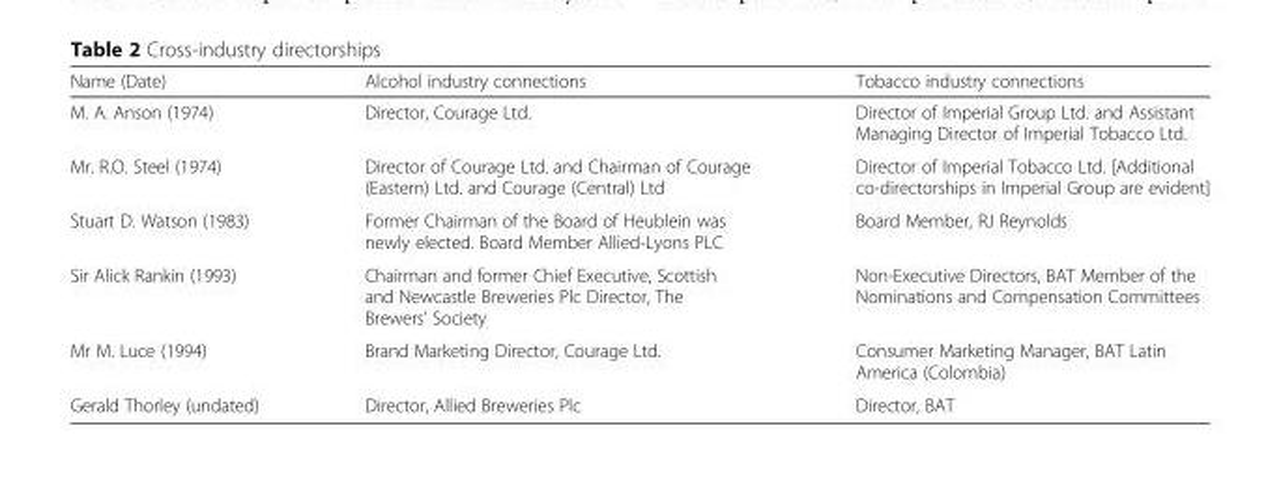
<table><thead><tr><td>Name (Date)</td><td>Alcohol industry connections</td><td>Tobacco industry connections</td></tr></thead><tbody><tr><td>M. A. Anson (1974)</td><td>Director, Courage Ltd.</td><td>Director of Imperial Group Ltd. and Assistant Managing Director of Imperial Tobacco Ltd.</td></tr><tr><td>Mr. R.O. Steel (1974)</td><td>Director of Courage Ltd. and Chairman of Courage (Eastern) Ltd. and Courage (Central) Ltd</td><td>Director of Imperial Tobacco Ltd. [Additional co-directorships in Imperial Group are evident]</td></tr><tr><td>Stuart D. Watson (1983)</td><td>Former Chairman of the Board of Heublein was newly elected. Board Member Allied-Lyons PLC</td><td>Board Member, RJ Reynolds</td></tr><tr><td>Sir Alick Rankin (1993)</td><td>Chairman and former Chief Executive, Scottish and Newcastle Breweries Plc Director, The Brewers’ Society</td><td>Non-Executive Directors, BAT Member of the Nominations and Compensation Committees</td></tr><tr><td>Mr M. Luce (1994)</td><td>Brand Marketing Director, Courage Ltd.</td><td>Consumer Marketing Manager, BAT Latin America (Colombia)</td></tr><tr><td>Gerald Thorley (undated)</td><td>Director, Allied Breweries Plc</td><td>Director, BAT</td></tr></tbody></table>